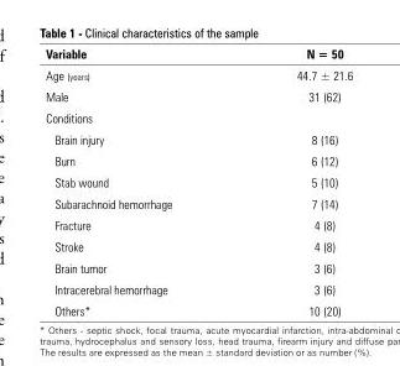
<table><thead><tr><td>Variable</td><td>N = 50</td></tr></thead><tbody><tr><td>Age (years)</td><td>44.7 ± 21.6</td></tr><tr><td>Male</td><td>31 (62)</td></tr><tr><td colspan="2">Conditions</td></tr><tr><td>Brain injury</td><td>8 (16)</td></tr><tr><td>Burn</td><td>6 (12)</td></tr><tr><td>Stab wound</td><td>5 (10)</td></tr><tr><td>Subarachnoid hemorrhage</td><td>7 (14)</td></tr><tr><td>Fracture</td><td>4 (8)</td></tr><tr><td>Stroke</td><td>4 (8)</td></tr><tr><td>Brain tumor</td><td>3 (6)</td></tr><tr><td>Intracerebral hemorrhage</td><td>3 (6)</td></tr><tr><td>Others*</td><td>10 (20)</td></tr></tbody></table>